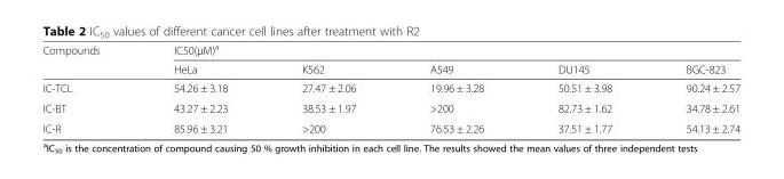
<table><thead><tr><td rowspan="2">Compounds</td><td colspan="5">IC50(μM)<sup>a</sup></td></tr><tr><td>HeLa</td><td>K562</td><td>A549</td><td>DU145</td><td>BGC-823</td></tr></thead><tbody><tr><td>IC-TCL</td><td>54.26 ± 3.18</td><td>27.47 ± 2.06</td><td>19.96 ± 3.28</td><td>50.51 ± 3.98</td><td>90.24 ± 2.57</td></tr><tr><td>IC-BT</td><td>43.27 ± 2.23</td><td>38.53 ± 1.97</td><td>&gt;200</td><td>82.73 ± 1.62</td><td>34.78 ± 2.61</td></tr><tr><td>IC-R</td><td>85.96 ± 3.21</td><td>&gt;200</td><td>76.53 ± 2.26</td><td>37.51 ± 1.77</td><td>54.13 ± 2.74</td></tr></tbody></table>